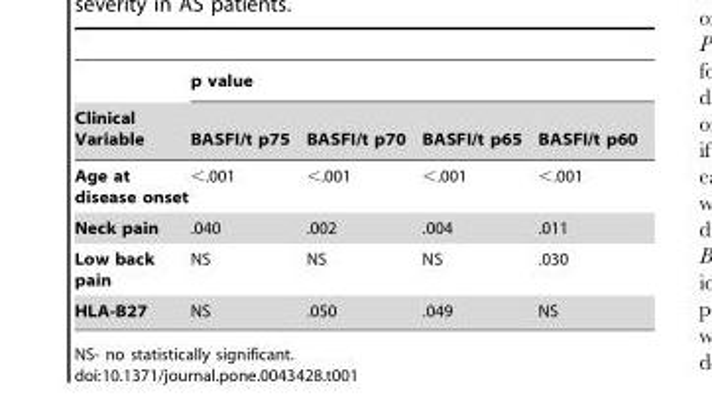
<table><thead><tr><td rowspan="2">Clinical Variable</td><td colspan="4">p value</td></tr><tr><td>BASFI/t p75</td><td>BASFI/t p70</td><td>BASFI/t p65</td><td>BASFI/t p60</td></tr></thead><tbody><tr><td>Age at disease onset</td><td>&lt;.001</td><td>&lt;.001</td><td>&lt;.001</td><td>&lt;.001</td></tr><tr><td>Neck pain</td><td>.040</td><td>.002</td><td>.004</td><td>.011</td></tr><tr><td>Low back pain</td><td>NS</td><td>NS</td><td>NS</td><td>.030</td></tr><tr><td>HLA-B27</td><td>NS</td><td>.050</td><td>.049</td><td>NS</td></tr></tbody></table>